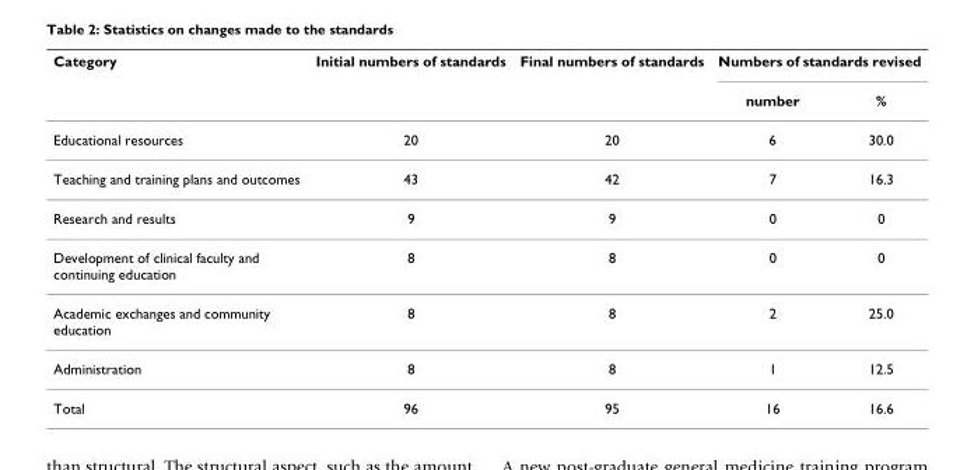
<table><thead><tr><td rowspan="2">Category</td><td rowspan="2">Initial numbers of standards</td><td rowspan="2">Final numbers of standards</td><td colspan="2">Numbers of standards revised</td></tr><tr><td>number</td><td>%</td></tr></thead><tbody><tr><td>Educational resources</td><td>20</td><td>20</td><td>6</td><td>30.0</td></tr><tr><td>Teaching and training plans and outcomes</td><td>43</td><td>42</td><td>7</td><td>16.3</td></tr><tr><td>Research and results</td><td>9</td><td>9</td><td>0</td><td>0</td></tr><tr><td>Development of clinical faculty and continuing education</td><td>8</td><td>8</td><td>0</td><td>0</td></tr><tr><td>Academic exchanges and community education</td><td>8</td><td>8</td><td>2</td><td>25.0</td></tr><tr><td>Administration</td><td>8</td><td>8</td><td>1</td><td>12.5</td></tr><tr><td>Total</td><td>96</td><td>95</td><td>16</td><td>16.6</td></tr></tbody></table>